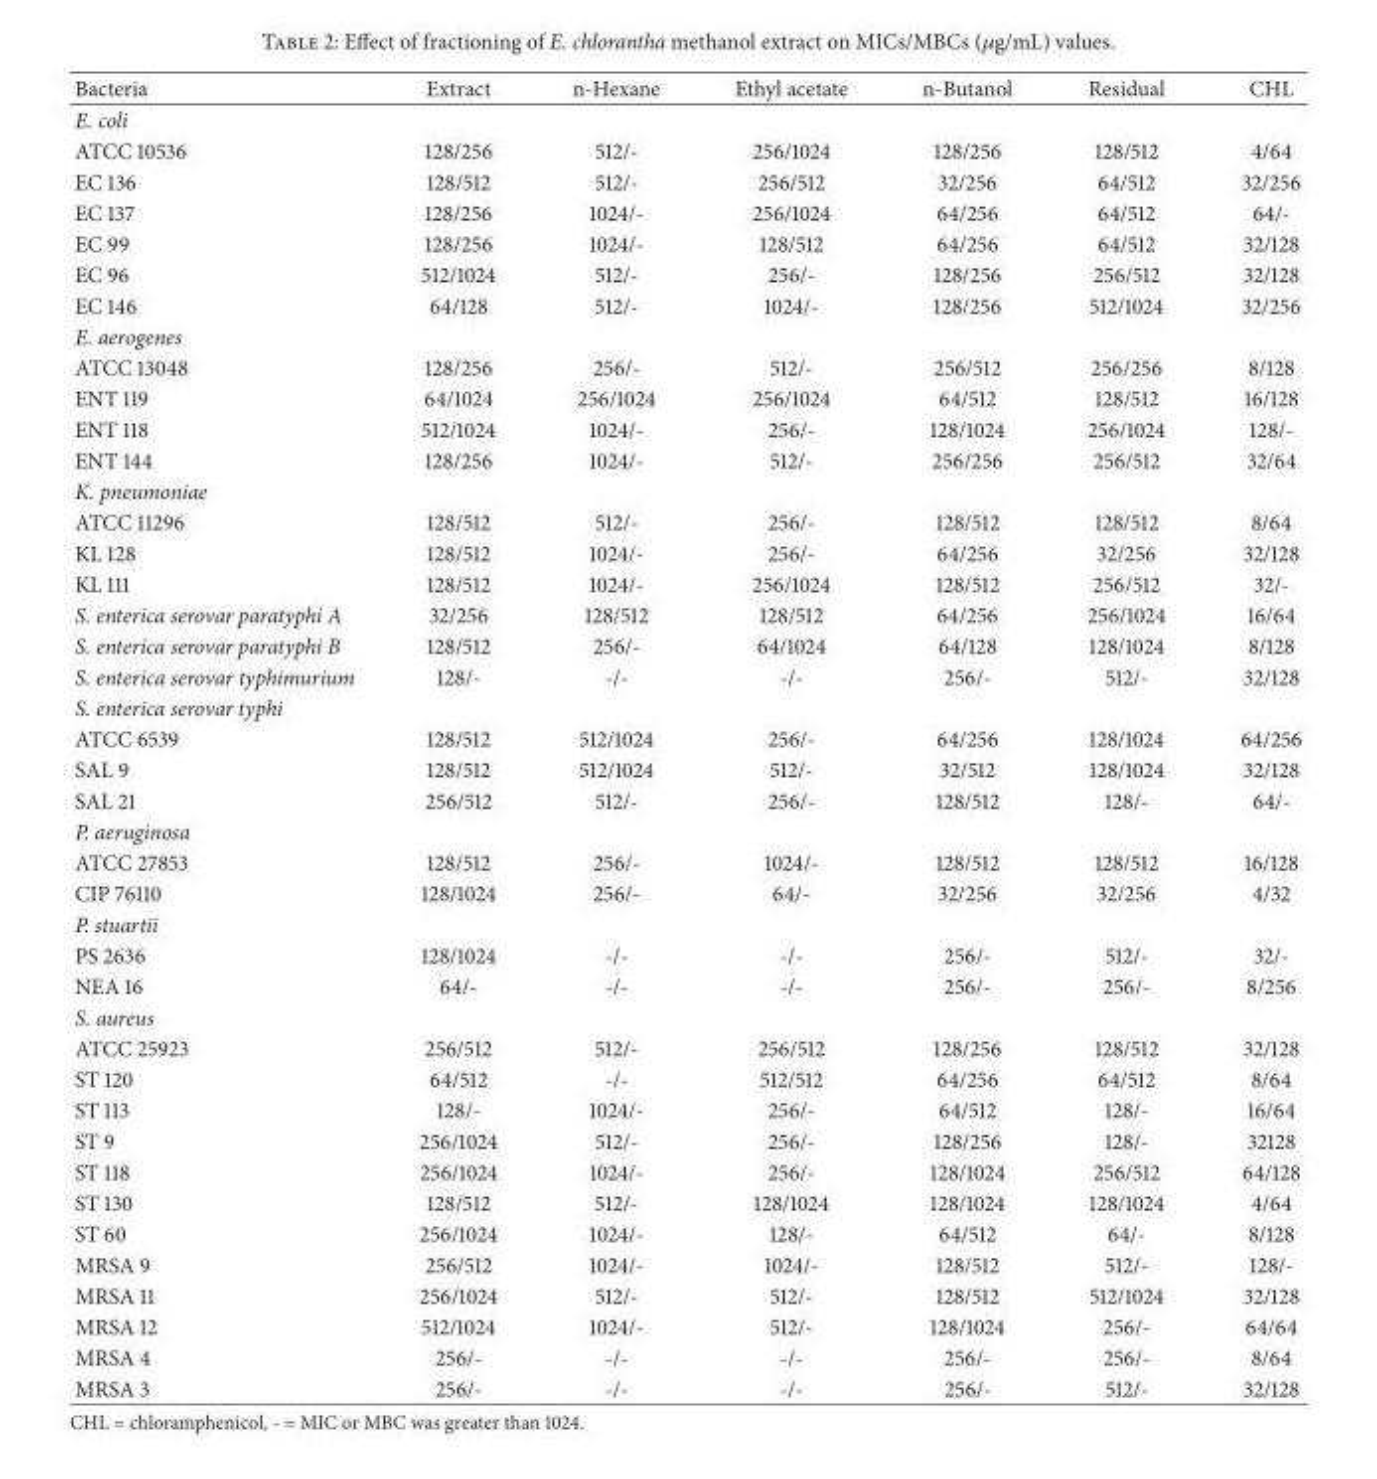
<table><thead><tr><td>Bacteria</td><td>Extract</td><td>n-Hexane</td><td>Ethyl acetate</td><td>n-Butanol</td><td>Residual</td><td>CHL</td></tr></thead><tbody><tr><td colspan="7">E. coli</td></tr><tr><td>ATCC 10536</td><td>128/256</td><td>512/-</td><td>256/1024</td><td>128/256</td><td>128/512</td><td>4/64</td></tr><tr><td>EC 136</td><td>128/512</td><td>512/-</td><td>256/512</td><td>32/256</td><td>64/512</td><td>32/256</td></tr><tr><td>EC 137</td><td>128/256</td><td>1024/-</td><td>256/1024</td><td>64/256</td><td>64/512</td><td>64/-</td></tr><tr><td>EC 99</td><td>128/256</td><td>1024/-</td><td>128/512</td><td>64/256</td><td>64/512</td><td>32/128</td></tr><tr><td>EC 96</td><td>512/1024</td><td>512/-</td><td>256/-</td><td>128/256</td><td>256/512</td><td>32/128</td></tr><tr><td>EC 146</td><td>64/128</td><td>512/-</td><td>1024/-</td><td>128/256</td><td>512/1024</td><td>32/256</td></tr><tr><td colspan="7">E. aerogenes</td></tr><tr><td>ATCC 13048</td><td>128/256</td><td>256/-</td><td>512/-</td><td>256/512</td><td>256/256</td><td>8/128</td></tr><tr><td>ENT 119</td><td>64/1024</td><td>256/1024</td><td>256/1024</td><td>64/512</td><td>128/512</td><td>16/128</td></tr><tr><td>ENT 118</td><td>512/1024</td><td>1024/-</td><td>256/-</td><td>128/1024</td><td>256/1024</td><td>128/-</td></tr><tr><td>ENT 144</td><td>128/256</td><td>1024/-</td><td>512/-</td><td>256/256</td><td>256/512</td><td>32/64</td></tr><tr><td colspan="7">K. pneumoniae</td></tr><tr><td>ATCC 11296</td><td>128/512</td><td>512/-</td><td>256/-</td><td>128/512</td><td>128/512</td><td>8/64</td></tr><tr><td>KL 128</td><td>128/512</td><td>1024/-</td><td>256/-</td><td>64/256</td><td>32/256</td><td>32/128</td></tr><tr><td>KL 111</td><td>128/512</td><td>1024/-</td><td>256/1024</td><td>128/512</td><td>256/512</td><td>32/-</td></tr><tr><td>S. enterica serovar paratyphi A</td><td>32/256</td><td>128/512</td><td>128/512</td><td>64/256</td><td>256/1024</td><td>16/64</td></tr><tr><td>S. enterica serovar paratyphi B</td><td>128/512</td><td>256/-</td><td>64/1024</td><td>64/128</td><td>128/1024</td><td>8/128</td></tr><tr><td>S. enterica serovar typhimurium</td><td>128/-</td><td>-/-</td><td>-/-</td><td>256/-</td><td>512/-</td><td>32/128</td></tr><tr><td colspan="7">S. enterica serovar typhi</td></tr><tr><td>ATCC 6539</td><td>128/512</td><td>512/1024</td><td>256/-</td><td>64/256</td><td>128/1024</td><td>64/256</td></tr><tr><td>SAL 9</td><td>128/512</td><td>512/1024</td><td>512/-</td><td>32/512</td><td>128/1024</td><td>32/128</td></tr><tr><td>SAL 21</td><td>256/512</td><td>512/-</td><td>256/-</td><td>128/512</td><td>128/-</td><td>64/-</td></tr><tr><td colspan="7">P. aeruginosa</td></tr><tr><td>ATCC 27853</td><td>128/512</td><td>256/-</td><td>1024/-</td><td>128/512</td><td>128/512</td><td>16/128</td></tr><tr><td>CIP 76110</td><td>128/1024</td><td>256/-</td><td>64/-</td><td>32/256</td><td>32/256</td><td>4/32</td></tr><tr><td colspan="7">P. stuartii</td></tr><tr><td>PS 2636</td><td>128/1024</td><td>-/-</td><td>-/-</td><td>256/-</td><td>512/-</td><td>32/-</td></tr><tr><td>NEA 16</td><td>64/-</td><td>-/-</td><td>-/-</td><td>256/-</td><td>256/-</td><td>8/256</td></tr><tr><td colspan="7">S. aureus</td></tr><tr><td>ATCC 25923</td><td>256/512</td><td>512/-</td><td>256/512</td><td>128/256</td><td>128/512</td><td>32/128</td></tr><tr><td>ST 120</td><td>64/512</td><td>-/-</td><td>512/512</td><td>64/256</td><td>64/512</td><td>8/64</td></tr><tr><td>ST 113</td><td>128/-</td><td>1024/-</td><td>256/-</td><td>64/512</td><td>128/-</td><td>16/64</td></tr><tr><td>ST 9</td><td>256/1024</td><td>512/-</td><td>256/-</td><td>128/256</td><td>128/-</td><td>32128</td></tr><tr><td>ST 118</td><td>256/1024</td><td>1024/-</td><td>256/-</td><td>128/1024</td><td>256/512</td><td>64/128</td></tr><tr><td>ST 130</td><td>128/512</td><td>512/-</td><td>128/1024</td><td>128/1024</td><td>128/1024</td><td>4/64</td></tr><tr><td>ST 60</td><td>256/1024</td><td>1024/-</td><td>128/-</td><td>64/512</td><td>64/-</td><td>8/128</td></tr><tr><td>MRSA 9</td><td>256/512</td><td>1024/-</td><td>1024/-</td><td>128/512</td><td>512/-</td><td>128/-</td></tr><tr><td>MRSA 11</td><td>256/1024</td><td>512/-</td><td>512/-</td><td>128/512</td><td>512/1024</td><td>32/128</td></tr><tr><td>MRSA 12</td><td>512/1024</td><td>1024/-</td><td>512/-</td><td>128/1024</td><td>256/-</td><td>64/64</td></tr><tr><td>MRSA 4</td><td>256/-</td><td>-/-</td><td>-/-</td><td>256/-</td><td>256/-</td><td>8/64</td></tr><tr><td>MRSA 3</td><td>256/-</td><td>-/-</td><td>-/-</td><td>256/-</td><td>512/-</td><td>32/128</td></tr></tbody></table>